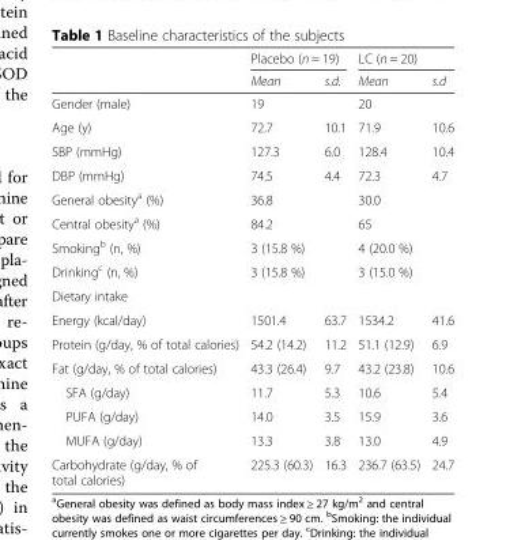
<table><thead><tr><td rowspan="2"></td><td colspan="2">Placebo (n = 19)</td><td colspan="2">LC (n = 20)</td></tr><tr><td>Mean</td><td>s.d.</td><td>Mean</td><td>s.d</td></tr></thead><tbody><tr><td>Gender (male)</td><td colspan="2">19</td><td colspan="2">20</td></tr><tr><td>Age (y)</td><td>72.7</td><td>10.1</td><td>71.9</td><td>10.6</td></tr><tr><td>SBP (mmHg)</td><td>127.3</td><td>6.0</td><td>128.4</td><td>10.4</td></tr><tr><td>DBP (mmHg)</td><td>74.5</td><td>4.4</td><td>72.3</td><td>4.7</td></tr><tr><td>General obesity<sup>a</sup> (%)</td><td colspan="2">36.8</td><td colspan="2">30.0</td></tr><tr><td>Central obesity<sup>a</sup> (%)</td><td colspan="2">84.2</td><td colspan="2">65</td></tr><tr><td>Smoking<sup>b</sup> (n, %)</td><td colspan="2">3 (15.8 %)</td><td colspan="2">4 (20.0 %)</td></tr><tr><td>Drinking<sup>c</sup> (n, %)</td><td colspan="2">3 (15.8 %)</td><td colspan="2">3 (15.0 %)</td></tr><tr><td colspan="5">Dietary intake</td></tr><tr><td>Energy (kcal/day)</td><td>1501.4</td><td>63.7</td><td>1534.2</td><td>41.6</td></tr><tr><td>Protein (g/day, % of total calories)</td><td>54.2 (14.2)</td><td>11.2</td><td>51.1 (12.9)</td><td>6.9</td></tr><tr><td>Fat (g/day, % of total calories)</td><td>43.3 (26.4)</td><td>9.7</td><td>43.2 (23.8)</td><td>10.6</td></tr><tr><td>SFA (g/day)</td><td>11.7</td><td>5.3</td><td>10.6</td><td>5.4</td></tr><tr><td>PUFA (g/day)</td><td>14.0</td><td>3.5</td><td>15.9</td><td>3.6</td></tr><tr><td>MUFA (g/day)</td><td>13.3</td><td>3.8</td><td>13.0</td><td>4.9</td></tr><tr><td>Carbohydrate (g/day, % of total calories)</td><td>225.3 (60.3)</td><td>16.3</td><td>236.7 (63.5)</td><td>24.7</td></tr></tbody></table>